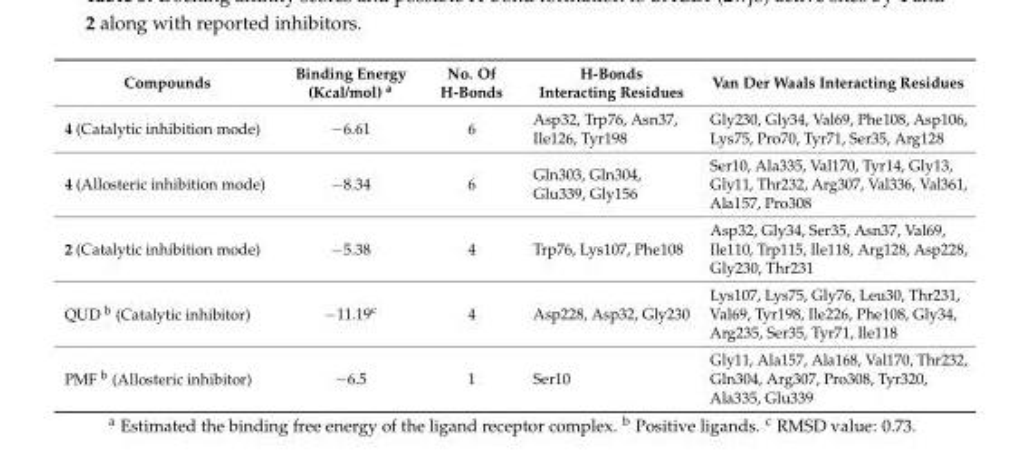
<table><thead><tr><td>Compounds</td><td>Binding Energy (Kcal/mol) <sup>a</sup></td><td>No. Of H-Bonds</td><td>H-Bonds Interacting Residues</td><td>Van Der Waals Interacting Residues</td></tr></thead><tbody><tr><td>4 (Catalytic inhibition mode)</td><td>−6.61</td><td>6</td><td>Asp32, Trp76, Asn37, Ile126, Tyr198</td><td>Gly230, Gly34, Val69, Phe108, Asp106, Lys75, Pro70, Tyr71, Ser35, Arg128</td></tr><tr><td>4 (Allosteric inhibition mode)</td><td>−8.34</td><td>6</td><td>Gln303, Gln304, Glu339, Gly156</td><td>Ser10, Ala335, Val170, Tyr14, Gly13, Gly11, Thr232, Arg307, Val336, Val361, Ala157, Pro308</td></tr><tr><td>2 (Catalytic inhibition mode)</td><td>−5.38</td><td>4</td><td>Trp76, Lys107, Phe108</td><td>Asp32, Gly34, Ser35, Asn37, Val69, Ile110, Trp115, Ile118, Arg128, Asp228, Gly230, Thr231</td></tr><tr><td>QUD <sup>b</sup> (Catalytic inhibitor)</td><td>−11.19<sup>c</sup></td><td>4</td><td>Asp228, Asp32, Gly230</td><td>Lys107, Lys75, Gly76, Leu30, Thr231, Val69, Tyr198, Ile226, Phe108, Gly34, Arg235, Ser35, Tyr71, Ile118</td></tr><tr><td>PMF <sup>b</sup> (Allosteric inhibitor)</td><td>−6.5</td><td>1</td><td>Ser10</td><td>Gly11, Ala157, Ala168, Val170, Thr232, Gln304, Arg307, Pro308, Tyr320, Ala335, Glu339</td></tr></tbody></table>